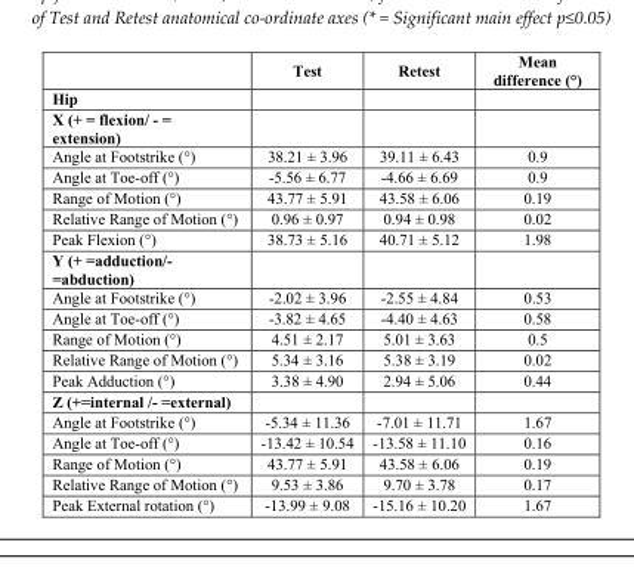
<table><thead><tr><td></td><td>Test</td><td>Retest</td><td>Mean difference (°)</td></tr></thead><tbody><tr><td colspan="4">Hip</td></tr><tr><td colspan="4">X (+ = flexion/ - = extension)</td></tr><tr><td>Angle at Footstrike (°)</td><td>38.21 ± 3.96</td><td>39.11 ± 6.43</td><td>0.9</td></tr><tr><td>Angle at Toe-off (°)</td><td>-5.56 ± 6.77</td><td>-4.66 ± 6.69</td><td>0.9</td></tr><tr><td>Range of Motion (°)</td><td>43.77 ± 5.91</td><td>43.58 ± 6.06</td><td>0.19</td></tr><tr><td>Relative Range of Motion (°)</td><td>0.96 ± 0.97</td><td>0.94 ± 0.98</td><td>0.02</td></tr><tr><td>Peak Flexion (°)</td><td>38.73 ± 5.16</td><td>40.71 ± 5.12</td><td>1.98</td></tr><tr><td colspan="4">Y (+ =adduction/- =abduction)</td></tr><tr><td>Angle at Footstrike (°)</td><td>-2.02 ± 3.96</td><td>-2.55 ± 4.84</td><td>0.53</td></tr><tr><td>Angle at Toe-off (°)</td><td>-3.82 ± 4.65</td><td>-4.40 ± 4.63</td><td>0.58</td></tr><tr><td>Range of Motion (°)</td><td>4.51 ± 2.17</td><td>5.01 ± 3.63</td><td>0.5</td></tr><tr><td>Relative Range of Motion (°)</td><td>5.34 ± 3.16</td><td>5.38 ± 3.19</td><td>0.02</td></tr><tr><td>Peak Adduction (°)</td><td>3.38 ± 4.90</td><td>2.94 ± 5.06</td><td>0.44</td></tr><tr><td colspan="4">Z (+=internal /- =external)</td></tr><tr><td>Angle at Footstrike (°)</td><td>-5.34 ± 11.36</td><td>-7.01 ± 11.71</td><td>1.67</td></tr><tr><td>Angle at Toe-off (°)</td><td>-13.42 ± 10.54</td><td>-13.58 ± 11.10</td><td>0.16</td></tr><tr><td>Range of Motion (°)</td><td>43.77 ± 5.91</td><td>43.58 ± 6.06</td><td>0.19</td></tr><tr><td>Relative Range of Motion (°)</td><td>9.53 ± 3.86</td><td>9.70 ± 3.78</td><td>0.17</td></tr><tr><td>Peak External rotation (°)</td><td>-13.99 ± 9.08</td><td>-15.16 ± 10.20</td><td>1.67</td></tr></tbody></table>